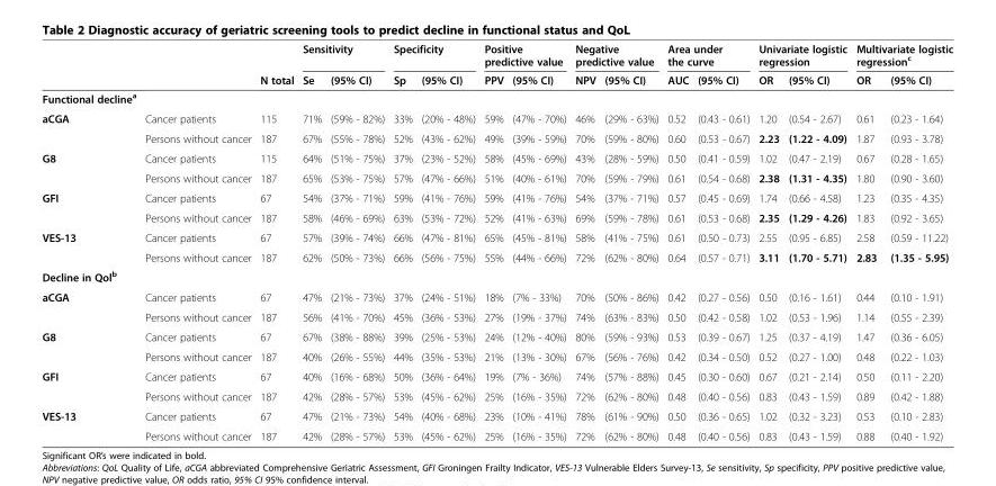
<table><thead><tr><td rowspan="2"></td><td rowspan="2"></td><td rowspan="2">N total</td><td colspan="2">Sensitivity</td><td colspan="2">Specificity</td><td colspan="2">Positive predictive value</td><td colspan="2">Negative predictive value</td><td colspan="2">Area under the curve</td><td colspan="2">Univariate logistic regression</td><td colspan="2">Multivariate logistic regression<sup>c</sup></td></tr><tr><td>Se</td><td>(95% CI)</td><td>Sp</td><td>(95% CI)</td><td>PPV</td><td>(95% CI)</td><td>NPV</td><td>(95% CI)</td><td>AUC</td><td>(95% CI)</td><td>OR</td><td>(95% CI)</td><td>OR</td><td>(95% CI)</td></tr></thead><tbody><tr><td colspan="17">Functional decline<sup>a</sup></td></tr><tr><td rowspan="2">aCGA</td><td>Cancer patients</td><td>115</td><td>71%</td><td>(59% - 82%)</td><td>33%</td><td>(20% - 48%)</td><td>59%</td><td>(47% - 70%)</td><td>46%</td><td>(29% - 63%)</td><td>0.52</td><td>(0.43 - 0.61)</td><td>1.20</td><td>(0.54 - 2.67)</td><td>0.61</td><td>(0.23 - 1.64)</td></tr><tr><td>Persons without cancer</td><td>187</td><td>67%</td><td>(55% - 78%)</td><td>52%</td><td>(43% - 62%)</td><td>49%</td><td>(39% - 59%)</td><td>70%</td><td>(59% - 80%)</td><td>0.60</td><td>(0.53 - 0.67)</td><td>2.23</td><td>(1.22 - 4.09)</td><td>1.87</td><td>(0.93 - 3.78)</td></tr><tr><td rowspan="2">G8</td><td>Cancer patients</td><td>115</td><td>64%</td><td>(51% - 75%)</td><td>37%</td><td>(23% - 52%)</td><td>58%</td><td>(45% - 69%)</td><td>43%</td><td>(28% - 59%)</td><td>0.50</td><td>(0.41 - 0.59)</td><td>1.02</td><td>(0.47 - 2.19)</td><td>0.67</td><td>(0.28 - 1.65)</td></tr><tr><td>Persons without cancer</td><td>187</td><td>65%</td><td>(53% - 75%)</td><td>57%</td><td>(47% - 66%)</td><td>51%</td><td>(40% - 61%)</td><td>70%</td><td>(59% - 79%)</td><td>0.61</td><td>(0.54 - 0.68)</td><td>2.38</td><td>(1.31 - 4.35)</td><td>1.80</td><td>(0.90 - 3.60)</td></tr><tr><td rowspan="2">GFI</td><td>Cancer patients</td><td>67</td><td>54%</td><td>(37% - 71%)</td><td>59%</td><td>(41% - 76%)</td><td>59%</td><td>(41% - 76%)</td><td>54%</td><td>(37% - 71%)</td><td>0.57</td><td>(0.45 - 0.69)</td><td>1.74</td><td>(0.66 - 4.58)</td><td>1.23</td><td>(0.35 - 4.35)</td></tr><tr><td>Persons without cancer</td><td>187</td><td>58%</td><td>(46% - 69%)</td><td>63%</td><td>(53% - 72%)</td><td>52%</td><td>(41% - 63%)</td><td>69%</td><td>(59% - 78%)</td><td>0.61</td><td>(0.53 - 0.68)</td><td>2.35</td><td>(1.29 - 4.26)</td><td>1.83</td><td>(0.92 - 3.65)</td></tr><tr><td rowspan="2">VES-13</td><td>Cancer patients</td><td>67</td><td>57%</td><td>(39% - 74%)</td><td>66%</td><td>(47% - 81%)</td><td>65%</td><td>(45% - 81%)</td><td>58%</td><td>(41% - 75%)</td><td>0.61</td><td>(0.50 - 0.73)</td><td>2.55</td><td>(0.95 - 6.85)</td><td>2.58</td><td>(0.59 - 11.22)</td></tr><tr><td>Persons without cancer</td><td>187</td><td>62%</td><td>(50% - 73%)</td><td>66%</td><td>(56% - 75%)</td><td>55%</td><td>(44% - 66%)</td><td>72%</td><td>(62% - 80%)</td><td>0.64</td><td>(0.57 - 0.71)</td><td>3.11</td><td>(1.70 - 5.71)</td><td>2.83</td><td>(1.35 - 5.95)</td></tr><tr><td colspan="17">Decline in Qol<sup>b</sup></td></tr><tr><td rowspan="2">aCGA</td><td>Cancer patients</td><td>67</td><td>47%</td><td>(21% - 73%)</td><td>37%</td><td>(24% - 51%)</td><td>18%</td><td>(7% - 33%)</td><td>70%</td><td>(50% - 86%)</td><td>0.42</td><td>(0.27 - 0.56)</td><td>0.50</td><td>(0.16 - 1.61)</td><td>0.44</td><td>(0.10 - 1.91)</td></tr><tr><td>Persons without cancer</td><td>187</td><td>56%</td><td>(41% - 70%)</td><td>45%</td><td>(36% - 53%)</td><td>27%</td><td>(19% - 37%)</td><td>74%</td><td>(63% - 83%)</td><td>0.50</td><td>(0.42 - 0.58)</td><td>1.02</td><td>(0.53 - 1.96)</td><td>1.14</td><td>(0.55 - 2.39)</td></tr><tr><td rowspan="2">G8</td><td>Cancer patients</td><td>67</td><td>67%</td><td>(38% - 88%)</td><td>39%</td><td>(25% - 53%)</td><td>24%</td><td>(12% - 40%)</td><td>80%</td><td>(59% - 93%)</td><td>0.53</td><td>(0.39 - 0.67)</td><td>1.25</td><td>(0.37 - 4.19)</td><td>1.47</td><td>(0.36 - 6.05)</td></tr><tr><td>Persons without cancer</td><td>187</td><td>40%</td><td>(26% - 55%)</td><td>44%</td><td>(35% - 53%)</td><td>21%</td><td>(13% - 30%)</td><td>67%</td><td>(56% - 76%)</td><td>0.42</td><td>(0.34 - 0.50)</td><td>0.52</td><td>(0.27 - 1.00)</td><td>0.48</td><td>(0.22 - 1.03)</td></tr><tr><td rowspan="2">GFI</td><td>Cancer patients</td><td>67</td><td>40%</td><td>(16% - 68%)</td><td>50%</td><td>(36% - 64%)</td><td>19%</td><td>(7% - 36%)</td><td>74%</td><td>(57% - 88%)</td><td>0.45</td><td>(0.30 - 0.60)</td><td>0.67</td><td>(0.21 - 2.14)</td><td>0.50</td><td>(0.11 - 2.20)</td></tr><tr><td>Persons without cancer</td><td>187</td><td>42%</td><td>(28% - 57%)</td><td>53%</td><td>(45% - 62%)</td><td>25%</td><td>(16% - 35%)</td><td>72%</td><td>(62% - 80%)</td><td>0.48</td><td>(0.40 - 0.56)</td><td>0.83</td><td>(0.43 - 1.59)</td><td>0.89</td><td>(0.42 - 1.88)</td></tr><tr><td rowspan="2">VES-13</td><td>Cancer patients</td><td>67</td><td>47%</td><td>(21% - 73%)</td><td>54%</td><td>(40% - 68%)</td><td>23%</td><td>(10% - 41%)</td><td>78%</td><td>(61% - 90%)</td><td>0.50</td><td>(0.36 - 0.65)</td><td>1.02</td><td>(0.32 - 3.23)</td><td>0.53</td><td>(0.10 - 2.83)</td></tr><tr><td>Persons without cancer</td><td>187</td><td>42%</td><td>(28% - 57%)</td><td>53%</td><td>(45% - 62%)</td><td>25%</td><td>(16% - 35%)</td><td>72%</td><td>(62% - 80%)</td><td>0.48</td><td>(0.40 - 0.56)</td><td>0.83</td><td>(0.43 - 1.59)</td><td>0.88</td><td>(0.40 - 1.92)</td></tr></tbody></table>